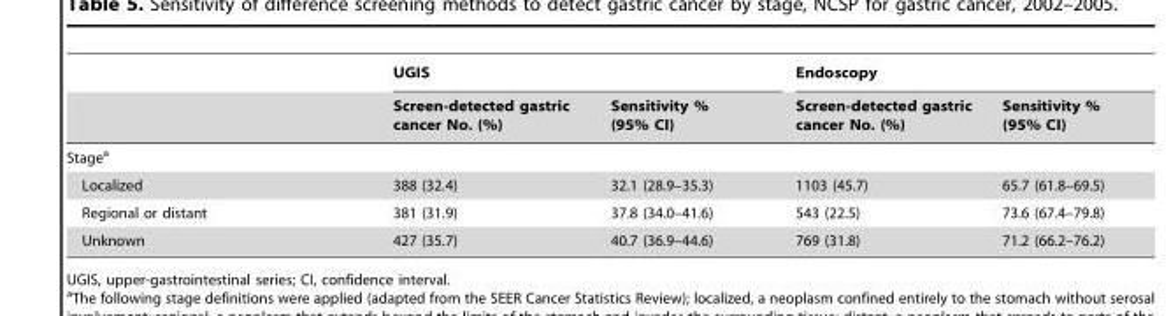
<table><thead><tr><td rowspan="2"></td><td colspan="2">UGIS</td><td colspan="2">Endoscopy</td></tr><tr><td>Screen-detected gastric cancer No. (%)</td><td>Sensitivity % (95% CI)</td><td>Screen-detected gastric cancer No. (%)</td><td>Sensitivity % (95% CI)</td></tr></thead><tbody><tr><td colspan="5">Stage<sup>a</sup></td></tr><tr><td>Localized</td><td>388 (32.4)</td><td>32.1 (28.9–35.3)</td><td>1103 (45.7)</td><td>65.7 (61.8–69.5)</td></tr><tr><td>Regional or distant</td><td>381 (31.9)</td><td>37.8 (34.0–41.6)</td><td>543 (22.5)</td><td>73.6 (67.4–79.8)</td></tr><tr><td>Unknown</td><td>427 (35.7)</td><td>40.7 (36.9–44.6)</td><td>769 (31.8)</td><td>71.2 (66.2–76.2)</td></tr></tbody></table>